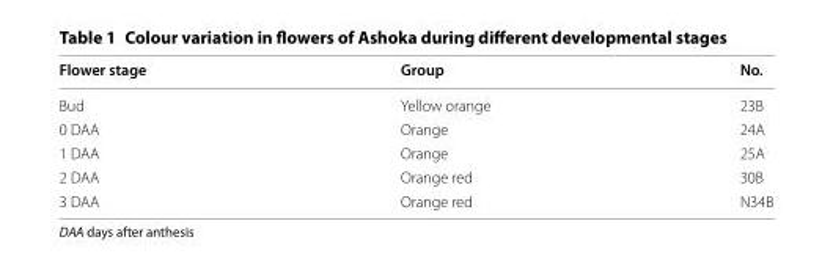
<table><thead><tr><td>Flower stage</td><td>Group</td><td>No.</td></tr></thead><tbody><tr><td>Bud</td><td>Yellow orange</td><td>23B</td></tr><tr><td>0 DAA</td><td>Orange</td><td>24A</td></tr><tr><td>1 DAA</td><td>Orange</td><td>25A</td></tr><tr><td>2 DAA</td><td>Orange red</td><td>30B</td></tr><tr><td>3 DAA</td><td>Orange red</td><td>N34B</td></tr></tbody></table>